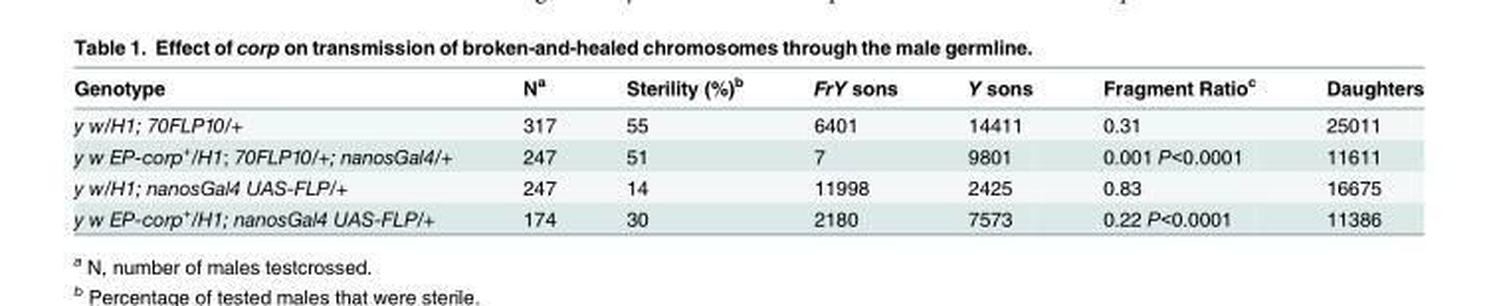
<table><thead><tr><td>Genotype</td><td>N<sup>a</sup></td><td>Sterility (%)<sup>b</sup></td><td>FrY sons</td><td>Y sons</td><td>Fragment Ratio<sup>c</sup></td><td>Daughters</td></tr></thead><tbody><tr><td>y w/H1; 70FLP10/+</td><td>317</td><td>55</td><td>6401</td><td>14411</td><td>0.31</td><td>25011</td></tr><tr><td>y w EP-corp<sup>+</sup>/H1; 70FLP10/+; nanosGal4/+</td><td>247</td><td>51</td><td>7</td><td>9801</td><td>0.001 P&lt;0.0001</td><td>11611</td></tr><tr><td>y w/H1; nanosGal4 UAS-FLP/+</td><td>247</td><td>14</td><td>11998</td><td>2425</td><td>0.83</td><td>16675</td></tr><tr><td>y w EP-corp<sup>+</sup>/H1; nanosGal4 UAS-FLP/+</td><td>174</td><td>30</td><td>2180</td><td>7573</td><td>0.22 P&lt;0.0001</td><td>11386</td></tr></tbody></table>